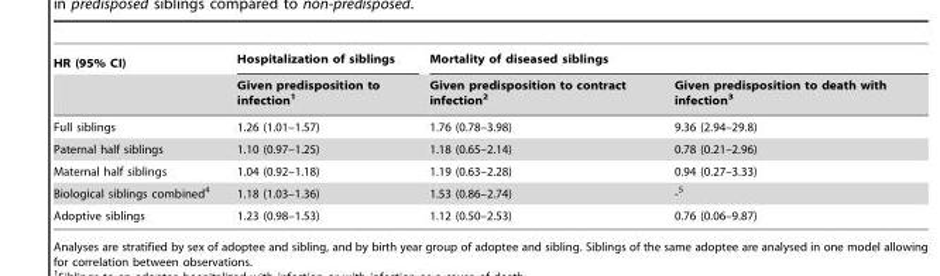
<table><thead><tr><td rowspan="2">HR (95% CI)</td><td rowspan="2">Hospitalization of siblings Given predisposition to infection<sup>1</sup></td><td colspan="2">Mortality of diseased siblings</td></tr><tr><td>Given predisposition to contract infection<sup>2</sup></td><td>Given predisposition to death with infection<sup>3</sup></td></tr></thead><tbody><tr><td>Full siblings</td><td>1.26 (1.01–1.57)</td><td>1.76 (0.78–3.98)</td><td>9.36 (2.94–29.8)</td></tr><tr><td>Paternal half siblings</td><td>1.10 (0.97–1.25)</td><td>1.18 (0.65–2.14)</td><td>0.78 (0.21–2.96)</td></tr><tr><td>Maternal half siblings</td><td>1.04 (0.92–1.18)</td><td>1.19 (0.63–2.28)</td><td>0.94 (0.27–3.33)</td></tr><tr><td>Biological siblings combined<sup>4</sup></td><td>1.18 (1.03–1.36)</td><td>1.53 (0.86–2.74)</td><td>-5</td></tr><tr><td>Adoptive siblings</td><td>1.23 (0.98–1.53)</td><td>1.12 (0.50–2.53)</td><td>0.76 (0.06–9.87)</td></tr></tbody></table>